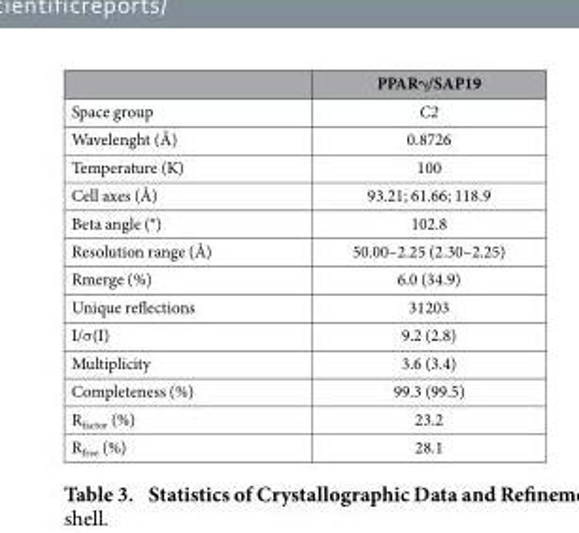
<table><thead><tr><td></td><td>PPARγ/SAP19</td></tr></thead><tbody><tr><td>Space group</td><td>C2</td></tr><tr><td>Wavelenght (Å)</td><td>0.8726</td></tr><tr><td>Temperature (K)</td><td>100</td></tr><tr><td>Cell axes (Å)</td><td>93.21; 61.66; 118.9</td></tr><tr><td>Beta angle (°)</td><td>102.8</td></tr><tr><td>Resolution range (Å)</td><td>50.00–2.25 (2.30–2.25)</td></tr><tr><td>Rmerge (%)</td><td>6.0 (34.9)</td></tr><tr><td>Unique reflections</td><td>31203</td></tr><tr><td>I/σ (I)</td><td>9.2 (2.8)</td></tr><tr><td>Multiplicity</td><td>3.6 (3.4)</td></tr><tr><td>Completeness (%)</td><td>99.3 (99.5)</td></tr><tr><td>R<sub>factor</sub> (%)</td><td>23.2</td></tr><tr><td>R<sub>free</sub> (%)</td><td>28.1</td></tr></tbody></table>